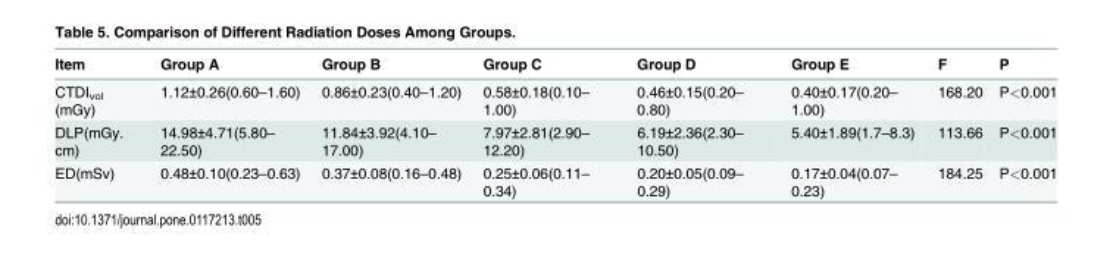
<table><thead><tr><td>Item</td><td>Group A</td><td>Group B</td><td>Group C</td><td>Group D</td><td>Group E</td><td>F</td><td>P</td></tr></thead><tbody><tr><td>CTDI<sub>vol</sub> (mGy)</td><td>1.12±0.26(0.60–1.60)</td><td>0.86±0.23(0.40–1.20)</td><td>0.58±0.18(0.10– 1.00)</td><td>0.46±0.15(0.20– 0.80)</td><td>0.40±0.17(0.20– 1.00)</td><td>168.20</td><td>P&lt;0.001</td></tr><tr><td>DLP(mGy. cm)</td><td>14.98±4.71(5.80– 22.50)</td><td>11.84±3.92(4.10– 17.00)</td><td>7.97±2.81(2.90– 12.20)</td><td>6.19±2.36(2.30– 10.50)</td><td>5.40±1.89(1.7–8.3)</td><td>113.66</td><td>P&lt;0.001</td></tr><tr><td>ED(mSv)</td><td>0.48±0.10(0.23–0.63)</td><td>0.37±0.08(0.16–0.48)</td><td>0.25±0.06(0.11– 0.34)</td><td>0.20±0.05(0.09– 0.29)</td><td>0.17±0.04(0.07– 0.23)</td><td>184.25</td><td>P&lt;0.001</td></tr></tbody></table>